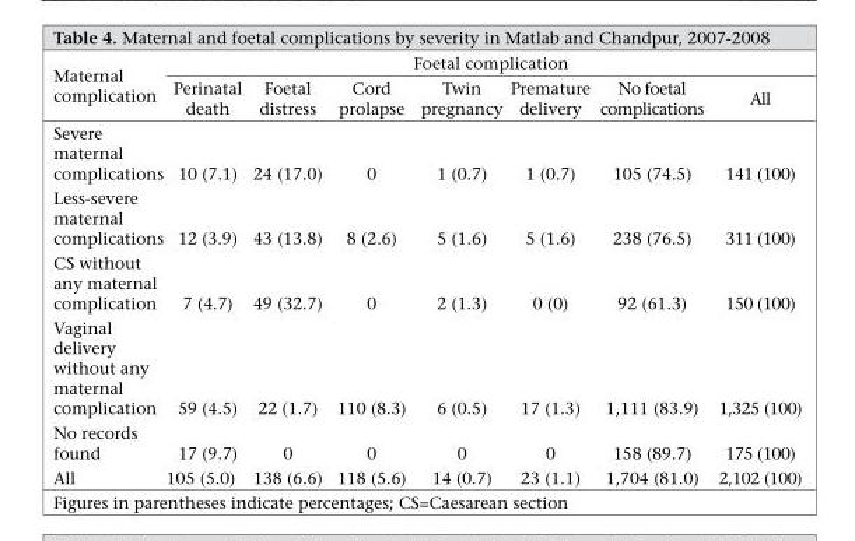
<table><thead><tr><td rowspan="2">Maternal complication</td><td colspan="7">Foetal complication</td></tr><tr><td>Perinatal death</td><td>Foetal distress</td><td>Cord prolapse</td><td>Twin pregnancy</td><td>Premature delivery</td><td>No foetal complications</td><td>All</td></tr></thead><tbody><tr><td>Severe maternal complications</td><td>10 (7.1)</td><td>24 (17.0)</td><td>0</td><td>1 (0.7)</td><td>1 (0.7)</td><td>105 (74.5)</td><td>141 (100)</td></tr><tr><td>Less-severe maternal complications</td><td>12 (3.9)</td><td>43 (13.8)</td><td>8 (2.6)</td><td>5 (1.6)</td><td>5 (1.6)</td><td>238 (76.5)</td><td>311 (100)</td></tr><tr><td>CS without any maternal complication</td><td>7 (4.7)</td><td>49 (32.7)</td><td>0</td><td>2 (1.3)</td><td>0 (0)</td><td>92 (61.3)</td><td>150 (100)</td></tr><tr><td>Vaginal delivery without any maternal complication</td><td>59 (4.5)</td><td>22 (1.7)</td><td>110 (8.3)</td><td>6 (0.5)</td><td>17 (1.3)</td><td>1,111 (83.9)</td><td>1,325 (100)</td></tr><tr><td>No records found</td><td>17 (9.7)</td><td>0</td><td>0</td><td>0</td><td>0</td><td>158 (89.7)</td><td>175 (100)</td></tr><tr><td>All</td><td>105 (5.0)</td><td>138 (6.6)</td><td>118 (5.6)</td><td>14 (0.7)</td><td>23 (1.1)</td><td>1,704 (81.0)</td><td>2,102 (100)</td></tr></tbody></table>